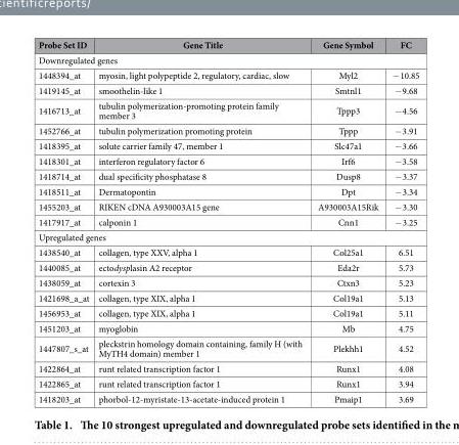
<table><thead><tr><td>Probe Set ID</td><td>Gene Title</td><td>Gene Symbol</td><td>FC</td></tr></thead><tbody><tr><td colspan="4">Downregulated genes</td></tr><tr><td>1448394_at</td><td>myosin, light polypeptide 2, regulatory, cardiac, slow</td><td>Myl2</td><td>− 10.85</td></tr><tr><td>1419145_at</td><td>smoothelin-like 1</td><td>Smtnl1</td><td>− 9.68</td></tr><tr><td>1416713_at</td><td>tubulin polymerization-promoting protein family member 3</td><td>Tppp3</td><td>− 4.56</td></tr><tr><td>1452766_at</td><td>tubulin polymerization promoting protein</td><td>Tppp</td><td>− 3.91</td></tr><tr><td>1418395_at</td><td>solute carrier family 47, member 1</td><td>Slc47a1</td><td>− 3.66</td></tr><tr><td>1418301_at</td><td>interferon regulatory factor 6</td><td>Irf6</td><td>− 3.58</td></tr><tr><td>1418714_at</td><td>dual specificity phosphatase 8</td><td>Dusp8</td><td>− 3.37</td></tr><tr><td>1418511_at</td><td>Dermatopontin</td><td>Dpt</td><td>− 3.34</td></tr><tr><td>1455203_at</td><td>RIKEN cDNA A930003A15 gene</td><td>A930003A15Rik</td><td>− 3.30</td></tr><tr><td>1417917_at</td><td>calponin 1</td><td>Cnn1</td><td>− 3.25</td></tr><tr><td colspan="4">Upregulated genes</td></tr><tr><td>1438540_at</td><td>collagen, type XXV, alpha 1</td><td>Col25a1</td><td>6.51</td></tr><tr><td>1440085_at</td><td>ectodysplasin A2 receptor</td><td>Eda2r</td><td>5.73</td></tr><tr><td>1438059_at</td><td>cortexin 3</td><td>Ctxn3</td><td>5.23</td></tr><tr><td>1421698_a_at</td><td>collagen, type XIX, alpha 1</td><td>Col19a1</td><td>5.13</td></tr><tr><td>1456953_at</td><td>collagen, type XIX, alpha 1</td><td>Col19a1</td><td>5.11</td></tr><tr><td>1451203_at</td><td>myoglobin</td><td>Mb</td><td>4.75</td></tr><tr><td>1447807_s_at</td><td>pleckstrin homology domain containing, family H (with MyTH4 domain) member 1</td><td>Plekhh1</td><td>4.52</td></tr><tr><td>1422864_at</td><td>runt related transcription factor 1</td><td>Runx1</td><td>4.08</td></tr><tr><td>1422865_at</td><td>runt related transcription factor 1</td><td>Runx1</td><td>3.94</td></tr><tr><td>1418203_at</td><td>phorbol-12-myristate-13-acetate-induced protein 1</td><td>Pmaip1</td><td>3.69</td></tr></tbody></table>